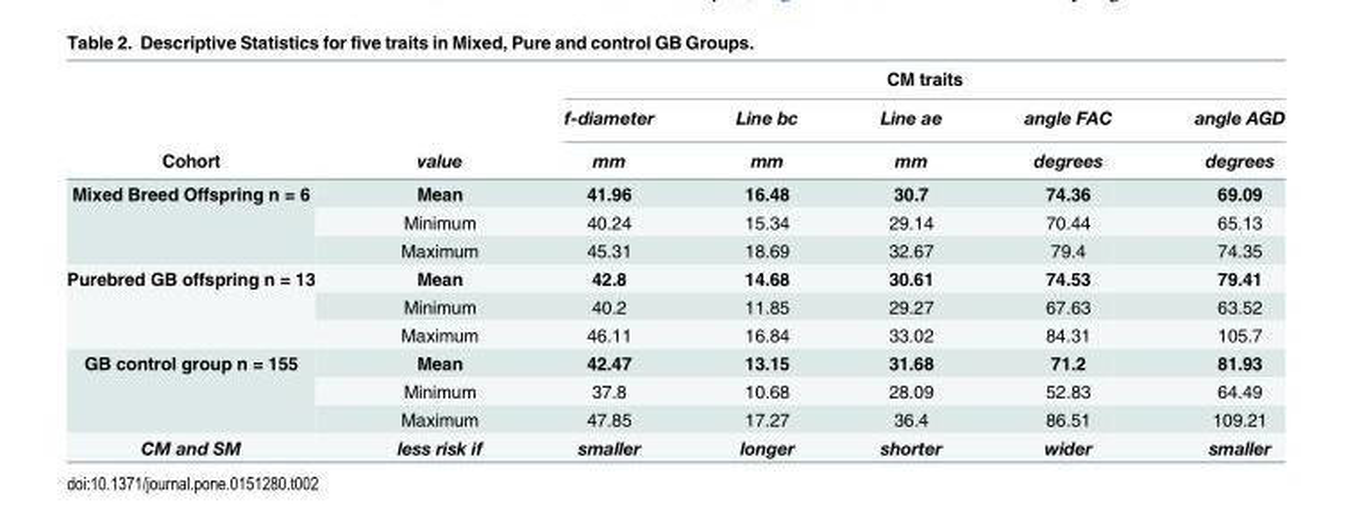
<table><thead><tr><td rowspan="3">Cohort</td><td rowspan="3">value</td><td colspan="5">CM traits</td></tr><tr><td rowspan="2">f-diameter mm</td><td rowspan="2">Line bc mm</td><td rowspan="2">Line ae mm</td><td rowspan="2">angle FAC degrees</td><td rowspan="2">angle AGD degrees</td></tr><tr></tr></thead><tbody><tr><td rowspan="3">Mixed Breed Offspring n = 6</td><td>Mean</td><td>41.96</td><td>16.48</td><td>30.7</td><td>74.36</td><td>69.09</td></tr><tr><td>Minimum</td><td>40.24</td><td>15.34</td><td>29.14</td><td>70.44</td><td>65.13</td></tr><tr><td>Maximum</td><td>45.31</td><td>18.69</td><td>32.67</td><td>79.4</td><td>74.35</td></tr><tr><td rowspan="3">Purebred GB offspring n = 13</td><td>Mean</td><td>42.8</td><td>14.68</td><td>30.61</td><td>74.53</td><td>79.41</td></tr><tr><td>Minimum</td><td>40.2</td><td>11.85</td><td>29.27</td><td>67.63</td><td>63.52</td></tr><tr><td>Maximum</td><td>46.11</td><td>16.84</td><td>33.02</td><td>84.31</td><td>105.7</td></tr><tr><td rowspan="3">GB control group n = 155</td><td>Mean</td><td>42.47</td><td>13.15</td><td>31.68</td><td>71.2</td><td>81.93</td></tr><tr><td>Minimum</td><td>37.8</td><td>10.68</td><td>28.09</td><td>52.83</td><td>64.49</td></tr><tr><td>Maximum</td><td>47.85</td><td>17.27</td><td>36.4</td><td>86.51</td><td>109.21</td></tr><tr><td>CM and SM</td><td>less risk if</td><td>smaller</td><td>longer</td><td>shorter</td><td>wider</td><td>smaller</td></tr></tbody></table>